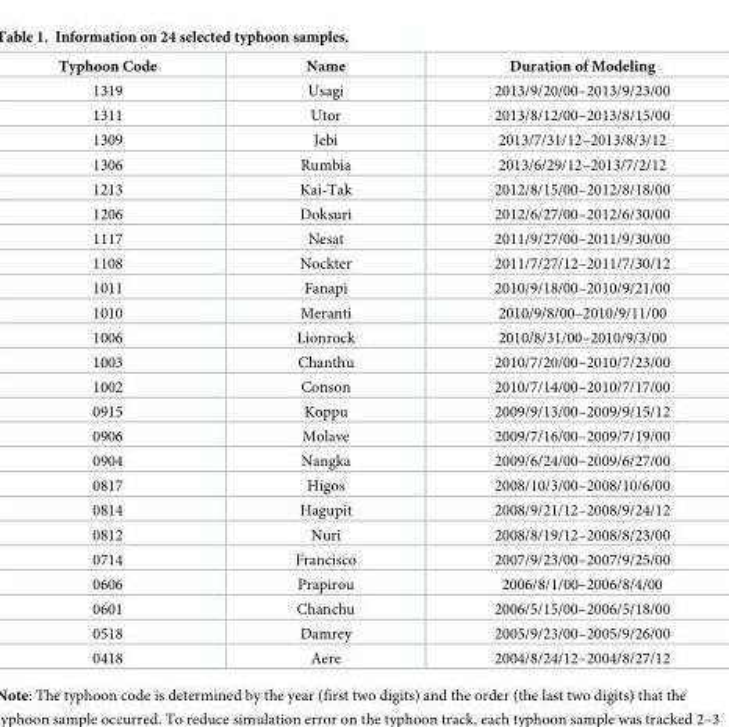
<table><thead><tr><td>Typhoon Code</td><td>Name</td><td>Duration of Modeling</td></tr></thead><tbody><tr><td>1319</td><td>Usagi</td><td>2013/9/20/00–2013/9/23/00</td></tr><tr><td>1311</td><td>Utor</td><td>2013/8/12/00–2013/8/15/00</td></tr><tr><td>1309</td><td>Jebi</td><td>2013/7/31/12–2013/8/3/12</td></tr><tr><td>1306</td><td>Rumbia</td><td>2013/6/29/12–2013/7/2/12</td></tr><tr><td>1213</td><td>Kai-Tak</td><td>2012/8/15/00–2012/8/18/00</td></tr><tr><td>1206</td><td>Doksuri</td><td>2012/6/27/00–2012/6/30/00</td></tr><tr><td>1117</td><td>Nesat</td><td>2011/9/27/00–2011/9/30/00</td></tr><tr><td>1108</td><td>Nockter</td><td>2011/7/27/12–2011/7/30/12</td></tr><tr><td>1011</td><td>Fanapi</td><td>2010/9/18/00–2010/9/21/00</td></tr><tr><td>1010</td><td>Meranti</td><td>2010/9/8/00–2010/9/11/00</td></tr><tr><td>1006</td><td>Lionrock</td><td>2010/8/31/00–2010/9/3/00</td></tr><tr><td>1003</td><td>Chanthu</td><td>2010/7/20/00–2010/7/23/00</td></tr><tr><td>1002</td><td>Conson</td><td>2010/7/14/00–2010/7/17/00</td></tr><tr><td>0915</td><td>Koppu</td><td>2009/9/13/00–2009/9/15/12</td></tr><tr><td>0906</td><td>Molave</td><td>2009/7/16/00–2009/7/19/00</td></tr><tr><td>0904</td><td>Nangka</td><td>2009/6/24/00–2009/6/27/00</td></tr><tr><td>0817</td><td>Higos</td><td>2008/10/3/00–2008/10/6/00</td></tr><tr><td>0814</td><td>Hagupit</td><td>2008/9/21/12–2008/9/24/12</td></tr><tr><td>0812</td><td>Nuri</td><td>2008/8/19/12–2008/8/23/00</td></tr><tr><td>0714</td><td>Francisco</td><td>2007/9/23/00–2007/9/25/00</td></tr><tr><td>0606</td><td>Prapirou</td><td>2006/8/1/00–2006/8/4/00</td></tr><tr><td>0601</td><td>Chanchu</td><td>2006/5/15/00–2006/5/18/00</td></tr><tr><td>0518</td><td>Damrey</td><td>2005/9/23/00–2005/9/26/00</td></tr><tr><td>0418</td><td>Aere</td><td>2004/8/24/12–2004/8/27/12</td></tr></tbody></table>